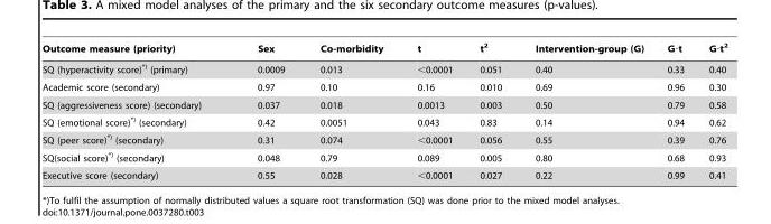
<table><thead><tr><td>Outcome measure (priority)</td><td>Sex</td><td>Co-morbidity</td><td>t</td><td>t<sup>2</sup></td><td>Intervention-group (G)</td><td>G⋅t</td><td>G⋅t<sup>2</sup></td></tr></thead><tbody><tr><td>SQ (hyperactivity score)*<sup>)</sup> (primary)</td><td>0.0009</td><td>0.013</td><td>&lt;0.0001</td><td>0.051</td><td>0.40</td><td>0.33</td><td>0.40</td></tr><tr><td>Academic score (secondary)</td><td>0.97</td><td>0.10</td><td>0.16</td><td>0.010</td><td>0.69</td><td>0.96</td><td>0.30</td></tr><tr><td>SQ (aggressiveness score) (secondary)</td><td>0.037</td><td>0.018</td><td>0.0013</td><td>0.003</td><td>0.50</td><td>0.79</td><td>0.58</td></tr><tr><td>SQ (emotional score)*<sup>)</sup> (secondary)</td><td>0.42</td><td>0.0051</td><td>0.043</td><td>0.83</td><td>0.14</td><td>0.94</td><td>0.62</td></tr><tr><td>SQ (peer score)*<sup>)</sup> (secondary)</td><td>0.31</td><td>0.074</td><td>&lt;0.0001</td><td>0.056</td><td>0.55</td><td>0.39</td><td>0.76</td></tr><tr><td>SQ(social score)*<sup>)</sup> (secondary)</td><td>0.048</td><td>0.79</td><td>0.089</td><td>0.005</td><td>0.80</td><td>0.68</td><td>0.93</td></tr><tr><td>Executive score (secondary)</td><td>0.55</td><td>0.028</td><td>&lt;0.0001</td><td>0.027</td><td>0.22</td><td>0.99</td><td>0.41</td></tr></tbody></table>